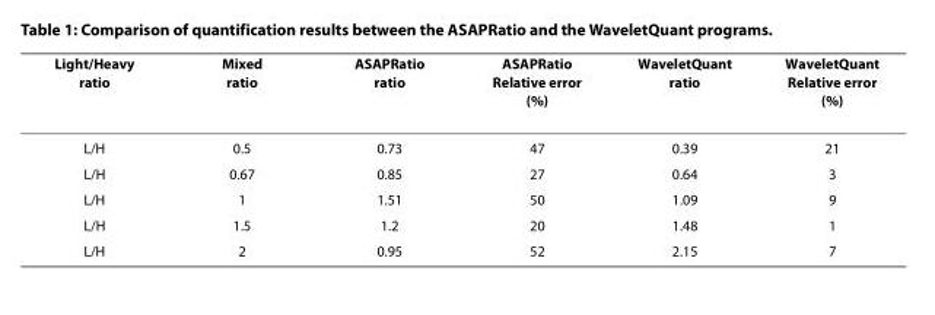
<table><thead><tr><td>Light/Heavy ratio</td><td>Mixed ratio</td><td>ASAPRatio ratio</td><td>ASAPRatio Relative error (%)</td><td>WaveletQuant ratio</td><td>WaveletQuant Relative error (%)</td></tr></thead><tbody><tr><td>L/H</td><td>0.5</td><td>0.73</td><td>47</td><td>0.39</td><td>21</td></tr><tr><td>L/H</td><td>0.67</td><td>0.85</td><td>27</td><td>0.64</td><td>3</td></tr><tr><td>L/H</td><td>1</td><td>1.51</td><td>50</td><td>1.09</td><td>9</td></tr><tr><td>L/H</td><td>1.5</td><td>1.2</td><td>20</td><td>1.48</td><td>1</td></tr><tr><td>L/H</td><td>2</td><td>0.95</td><td>52</td><td>2.15</td><td>7</td></tr></tbody></table>